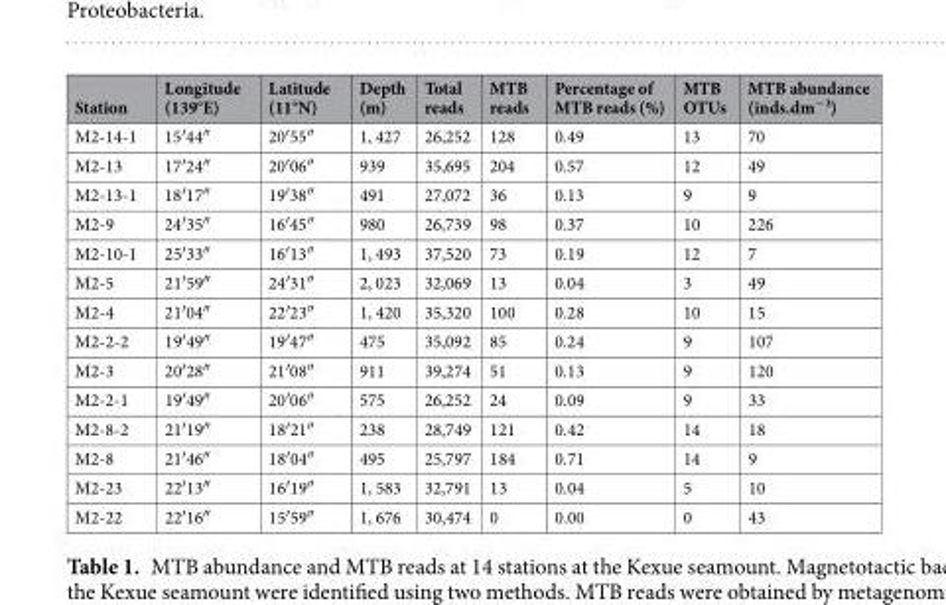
<table><thead><tr><td>Station</td><td>Longitude (139°E)</td><td>Latitude (11°N)</td><td>Depth (m)</td><td>Total reads</td><td>MTB reads</td><td>Percentage of MTB reads (%)</td><td>MTB OTUs</td><td>MTB abundance (inds.dm<sup>−3</sup>)</td></tr></thead><tbody><tr><td>M2-14-1</td><td>15′44″</td><td>20′55″</td><td>1, 427</td><td>26,252</td><td>128</td><td>0.49</td><td>13</td><td>70</td></tr><tr><td>M2-13</td><td>17′24″</td><td>20′06″</td><td>939</td><td>35,695</td><td>204</td><td>0.57</td><td>12</td><td>49</td></tr><tr><td>M2-13-1</td><td>18′17″</td><td>19′38″</td><td>491</td><td>27,072</td><td>36</td><td>0.13</td><td>9</td><td>9</td></tr><tr><td>M2-9</td><td>24′35″</td><td>16′45″</td><td>980</td><td>26,739</td><td>98</td><td>0.37</td><td>10</td><td>226</td></tr><tr><td>M2-10-1</td><td>25′33″</td><td>16′13″</td><td>1, 493</td><td>37,520</td><td>73</td><td>0.19</td><td>12</td><td>7</td></tr><tr><td>M2-5</td><td>21′59″</td><td>24′31″</td><td>2, 023</td><td>32,069</td><td>13</td><td>0.04</td><td>3</td><td>49</td></tr><tr><td>M2-4</td><td>21′04″</td><td>22′23″</td><td>1, 420</td><td>35,320</td><td>100</td><td>0.28</td><td>10</td><td>15</td></tr><tr><td>M2-2-2</td><td>19′49″</td><td>19′47″</td><td>475</td><td>35,092</td><td>85</td><td>0.24</td><td>9</td><td>107</td></tr><tr><td>M2-3</td><td>20′28″</td><td>21′08″</td><td>911</td><td>39,274</td><td>51</td><td>0.13</td><td>9</td><td>120</td></tr><tr><td>M2-2-1</td><td>19′49″</td><td>20′06″</td><td>575</td><td>26,252</td><td>24</td><td>0.09</td><td>9</td><td>33</td></tr><tr><td>M2-8-2</td><td>21′19″</td><td>18′21″</td><td>238</td><td>28,749</td><td>121</td><td>0.42</td><td>14</td><td>18</td></tr><tr><td>M2-8</td><td>21′46″</td><td>18′04″</td><td>495</td><td>25,797</td><td>184</td><td>0.71</td><td>14</td><td>9</td></tr><tr><td>M2-23</td><td>22′13″</td><td>16′19″</td><td>1, 583</td><td>32,791</td><td>13</td><td>0.04</td><td>5</td><td>10</td></tr><tr><td>M2-22</td><td>22′16″</td><td>15′59″</td><td>1, 676</td><td>30,474</td><td>0</td><td>0.00</td><td>0</td><td>43</td></tr></tbody></table>